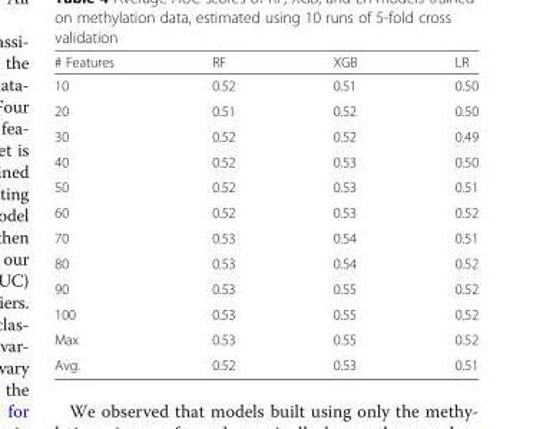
<table><thead><tr><td># Features</td><td>RF</td><td>XGB</td><td>LR</td></tr></thead><tbody><tr><td>10</td><td>0.52</td><td>0.51</td><td>0.50</td></tr><tr><td>20</td><td>0.51</td><td>0.52</td><td>0.50</td></tr><tr><td>30</td><td>0.52</td><td>0.52</td><td>0.49</td></tr><tr><td>40</td><td>0.52</td><td>0.53</td><td>0.50</td></tr><tr><td>50</td><td>0.52</td><td>0.53</td><td>0.51</td></tr><tr><td>60</td><td>0.52</td><td>0.53</td><td>0.52</td></tr><tr><td>70</td><td>0.53</td><td>0.54</td><td>0.51</td></tr><tr><td>80</td><td>0.53</td><td>0.54</td><td>0.52</td></tr><tr><td>90</td><td>0.53</td><td>0.55</td><td>0.52</td></tr><tr><td>100</td><td>0.53</td><td>0.55</td><td>0.52</td></tr><tr><td>Max</td><td>0.53</td><td>0.55</td><td>0.52</td></tr><tr><td>Avg.</td><td>0.52</td><td>0.53</td><td>0.51</td></tr></tbody></table>